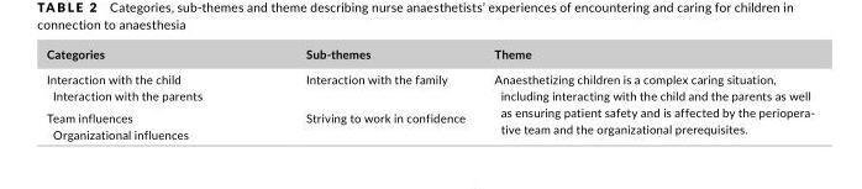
<table><thead><tr><td>Categories</td><td>Sub- themes</td><td>Theme</td></tr></thead><tbody><tr><td>Interaction with the child Interaction with the parents</td><td>Interaction with the family</td><td rowspan="2">Anaesthetizing children is a complex caring situation, including interacting with the child and the parents as well as ensuring patient safety and is affected by the periopera- tive team and the organizational prerequisites.</td></tr><tr><td>Team influences Organizational influences</td><td>Striving to work in confidence</td></tr></tbody></table>